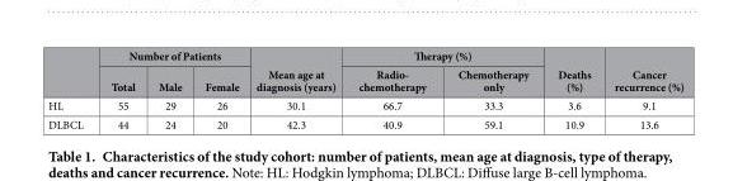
<table><thead><tr><td rowspan="2"></td><td colspan="3">Number of Patients</td><td rowspan="2">Mean age at diagnosis (years)</td><td colspan="2">Therapy (%)</td><td rowspan="2">Deaths (%)</td><td rowspan="2">Cancer recurrence (%)</td></tr><tr><td>Total</td><td>Male</td><td>Female</td><td>Radio- chemotherapy</td><td>Chemotherapy only</td></tr></thead><tbody><tr><td>HL</td><td>55</td><td>29</td><td>26</td><td>30.1</td><td>66.7</td><td>33.3</td><td>3.6</td><td>9.1</td></tr><tr><td>DLBCL</td><td>44</td><td>24</td><td>20</td><td>42.3</td><td>40.9</td><td>59.1</td><td>10.9</td><td>13.6</td></tr></tbody></table>